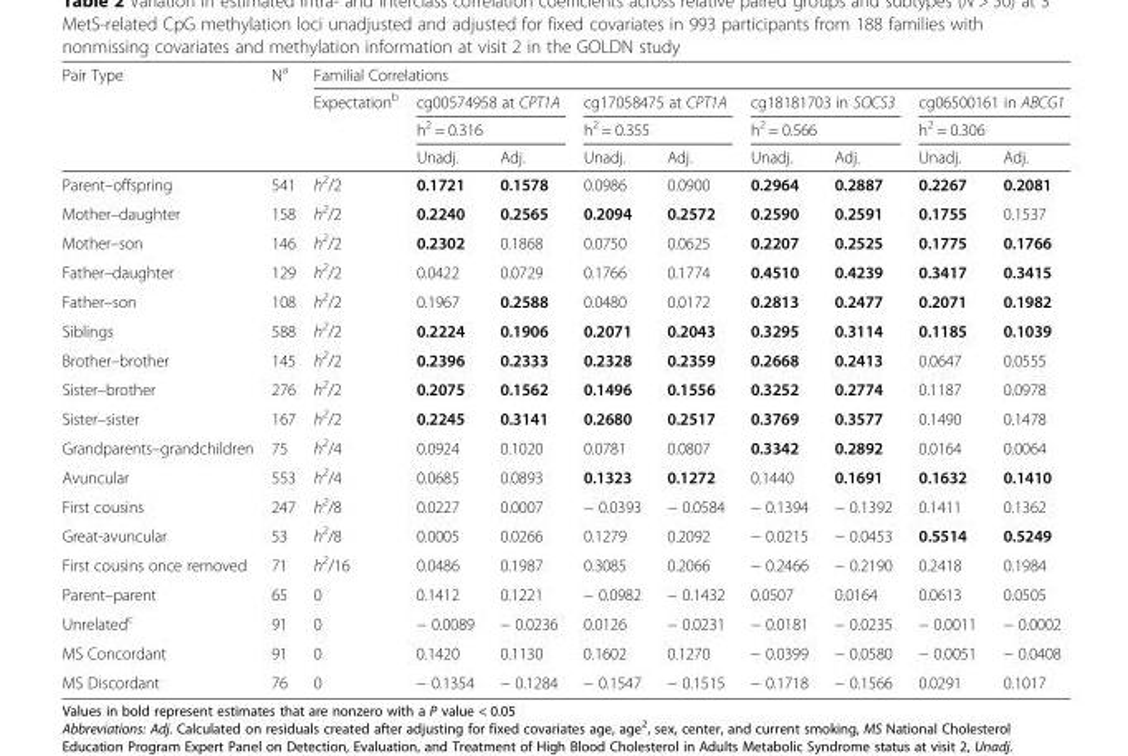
<table><thead><tr><td rowspan="4">Pair Type</td><td rowspan="4">N<sup>a</sup></td><td colspan="9">Familial Correlations</td></tr><tr><td rowspan="3">Expectation<sup>b</sup></td><td rowspan="2" colspan="2">cg00574958 at CPT1A h<sup>2</sup> = 0.316</td><td rowspan="2" colspan="2">cg17058475 at CPT1A h<sup>2</sup> = 0.355</td><td rowspan="2" colspan="2">cg18181703 in SOCS3 h<sup>2</sup> = 0.566</td><td rowspan="2" colspan="2">cg06500161 in ABCG1 h<sup>2</sup> = 0.306</td></tr><tr></tr><tr><td>Unadj.</td><td>Adj.</td><td>Unadj.</td><td>Adj.</td><td>Unadj.</td><td>Adj.</td><td>Unadj.</td><td>Adj.</td></tr></thead><tbody><tr><td>Parent–offspring</td><td>541</td><td>h<sup>2</sup>/2</td><td>0.1721</td><td>0.1578</td><td>0.0986</td><td>0.0900</td><td>0.2964</td><td>0.2887</td><td>0.2267</td><td>0.2081</td></tr><tr><td>Mother–daughter</td><td>158</td><td>h<sup>2</sup>/2</td><td>0.2240</td><td>0.2565</td><td>0.2094</td><td>0.2572</td><td>0.2590</td><td>0.2591</td><td>0.1755</td><td>0.1537</td></tr><tr><td>Mother–son</td><td>146</td><td>h<sup>2</sup>/2</td><td>0.2302</td><td>0.1868</td><td>0.0750</td><td>0.0625</td><td>0.2207</td><td>0.2525</td><td>0.1775</td><td>0.1766</td></tr><tr><td>Father–daughter</td><td>129</td><td>h<sup>2</sup>/2</td><td>0.0422</td><td>0.0729</td><td>0.1766</td><td>0.1774</td><td>0.4510</td><td>0.4239</td><td>0.3417</td><td>0.3415</td></tr><tr><td>Father–son</td><td>108</td><td>h<sup>2</sup>/2</td><td>0.1967</td><td>0.2588</td><td>0.0480</td><td>0.0172</td><td>0.2813</td><td>0.2477</td><td>0.2071</td><td>0.1982</td></tr><tr><td>Siblings</td><td>588</td><td>h<sup>2</sup>/2</td><td>0.2224</td><td>0.1906</td><td>0.2071</td><td>0.2043</td><td>0.3295</td><td>0.3114</td><td>0.1185</td><td>0.1039</td></tr><tr><td>Brother–brother</td><td>145</td><td>h<sup>2</sup>/2</td><td>0.2396</td><td>0.2333</td><td>0.2328</td><td>0.2359</td><td>0.2668</td><td>0.2413</td><td>0.0647</td><td>0.0555</td></tr><tr><td>Sister–brother</td><td>276</td><td>h<sup>2</sup>/2</td><td>0.2075</td><td>0.1562</td><td>0.1496</td><td>0.1556</td><td>0.3252</td><td>0.2774</td><td>0.1187</td><td>0.0978</td></tr><tr><td>Sister–sister</td><td>167</td><td>h<sup>2</sup>/2</td><td>0.2245</td><td>0.3141</td><td>0.2680</td><td>0.2517</td><td>0.3769</td><td>0.3577</td><td>0.1490</td><td>0.1478</td></tr><tr><td>Grandparents–grandchildren</td><td>75</td><td>h<sup>2</sup>/4</td><td>0.0924</td><td>0.1020</td><td>0.0781</td><td>0.0807</td><td>0.3342</td><td>0.2892</td><td>0.0164</td><td>0.0064</td></tr><tr><td>Avuncular</td><td>553</td><td>h<sup>2</sup>/4</td><td>0.0685</td><td>0.0893</td><td>0.1323</td><td>0.1272</td><td>0.1440</td><td>0.1691</td><td>0.1632</td><td>0.1410</td></tr><tr><td>First cousins</td><td>247</td><td>h<sup>2</sup>/8</td><td>0.0227</td><td>0.0007</td><td>− 0.0393</td><td>− 0.0584</td><td>− 0.1394</td><td>− 0.1392</td><td>0.1411</td><td>0.1362</td></tr><tr><td>Great-avuncular</td><td>53</td><td>h<sup>2</sup>/8</td><td>0.0005</td><td>0.0266</td><td>0.1279</td><td>0.2092</td><td>− 0.0215</td><td>− 0.0453</td><td>0.5514</td><td>0.5249</td></tr><tr><td>First cousins once removed</td><td>71</td><td>h<sup>2</sup>/16</td><td>0.0486</td><td>0.1987</td><td>0.3085</td><td>0.2066</td><td>− 0.2466</td><td>− 0.2190</td><td>0.2418</td><td>0.1984</td></tr><tr><td>Parent–parent</td><td>65</td><td>0</td><td>0.1412</td><td>0.1221</td><td>− 0.0982</td><td>− 0.1432</td><td>0.0507</td><td>0.0164</td><td>0.0613</td><td>0.0505</td></tr><tr><td>Unrelated<sup>c</sup></td><td>91</td><td>0</td><td>− 0.0089</td><td>− 0.0236</td><td>0.0126</td><td>− 0.0231</td><td>− 0.0181</td><td>− 0.0235</td><td>− 0.0011</td><td>− 0.0002</td></tr><tr><td>MS Concordant</td><td>91</td><td>0</td><td>0.1420</td><td>0.1130</td><td>0.1602</td><td>0.1270</td><td>− 0.0399</td><td>− 0.0580</td><td>− 0.0051</td><td>− 0.0408</td></tr><tr><td>MS Discordant</td><td>76</td><td>0</td><td>− 0.1354</td><td>− 0.1284</td><td>− 0.1547</td><td>− 0.1515</td><td>− 0.1718</td><td>− 0.1566</td><td>0.0291</td><td>0.1017</td></tr></tbody></table>